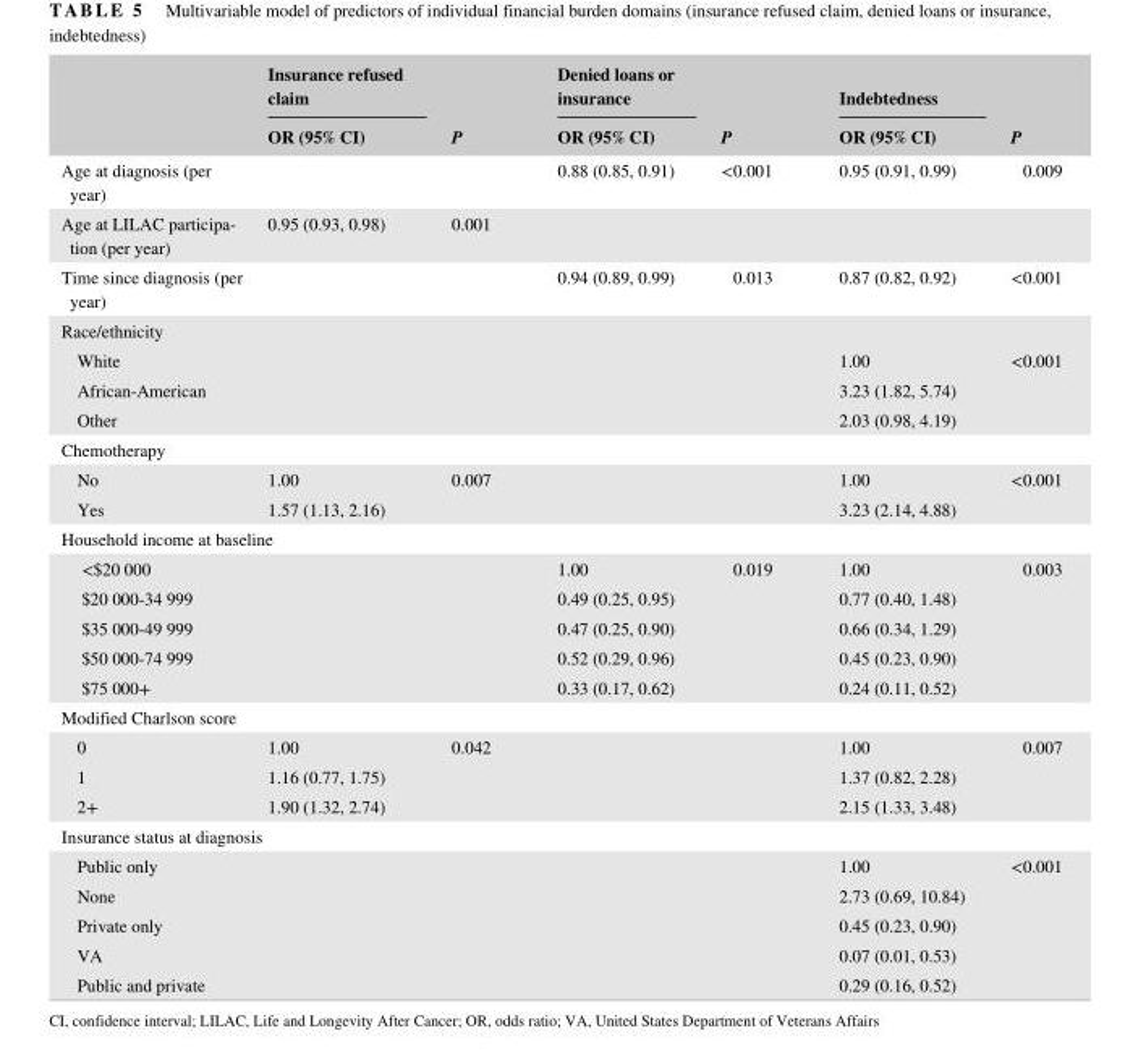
<table><thead><tr><td rowspan="2"></td><td rowspan="2">Insurance refused claim OR (95% CI)</td><td rowspan="2">P</td><td rowspan="2">Denied loans or insurance OR (95% CI)</td><td rowspan="2">P</td><td rowspan="2">Indebtedness OR (95% CI)</td><td rowspan="2">P</td></tr><tr></tr></thead><tbody><tr><td>Age at diagnosis (per year)</td><td></td><td></td><td>0.88 (0.85, 0.91)</td><td>&lt;0.001</td><td>0.95 (0.91, 0.99)</td><td>0.009</td></tr><tr><td>Age at LILAC participa- tion (per year)</td><td>0.95 (0.93, 0.98)</td><td>0.001</td><td></td><td></td><td></td><td></td></tr><tr><td>Time since diagnosis (per year)</td><td></td><td></td><td>0.94 (0.89, 0.99)</td><td>0.013</td><td>0.87 (0.82, 0.92)</td><td>&lt;0.001</td></tr><tr><td colspan="7">Race/ethnicity</td></tr><tr><td>White</td><td></td><td></td><td></td><td></td><td>1.00</td><td>&lt;0.001</td></tr><tr><td>African- American</td><td></td><td></td><td></td><td></td><td>3.23 (1.82, 5.74)</td><td></td></tr><tr><td>Other</td><td></td><td></td><td></td><td></td><td>2.03 (0.98, 4.19)</td><td></td></tr><tr><td colspan="7">Chemotherapy</td></tr><tr><td>No</td><td>1.00</td><td>0.007</td><td></td><td></td><td>1.00</td><td>&lt;0.001</td></tr><tr><td>Yes</td><td>1.57 (1.13, 2.16)</td><td></td><td></td><td></td><td>3.23 (2.14, 4.88)</td><td></td></tr><tr><td colspan="7">Household income at baseline</td></tr><tr><td>&lt;$20 000</td><td></td><td></td><td>1.00</td><td>0.019</td><td>1.00</td><td>0.003</td></tr><tr><td>$20 000- 34 999</td><td></td><td></td><td>0.49 (0.25, 0.95)</td><td></td><td>0.77 (0.40, 1.48)</td><td></td></tr><tr><td>$35 000- 49 999</td><td></td><td></td><td>0.47 (0.25, 0.90)</td><td></td><td>0.66 (0.34, 1.29)</td><td></td></tr><tr><td>$50 000- 74 999</td><td></td><td></td><td>0.52 (0.29, 0.96)</td><td></td><td>0.45 (0.23, 0.90)</td><td></td></tr><tr><td>$75 000+</td><td></td><td></td><td>0.33 (0.17, 0.62)</td><td></td><td>0.24 (0.11, 0.52)</td><td></td></tr><tr><td colspan="7">Modified Charlson score</td></tr><tr><td>0</td><td>1.00</td><td>0.042</td><td></td><td></td><td>1.00</td><td>0.007</td></tr><tr><td>1</td><td>1.16 (0.77, 1.75)</td><td></td><td></td><td></td><td>1.37 (0.82, 2.28)</td><td></td></tr><tr><td>2+</td><td>1.90 (1.32, 2.74)</td><td></td><td></td><td></td><td>2.15 (1.33, 3.48)</td><td></td></tr><tr><td colspan="7">Insurance status at diagnosis</td></tr><tr><td>Public only</td><td></td><td></td><td></td><td></td><td>1.00</td><td>&lt;0.001</td></tr><tr><td>None</td><td></td><td></td><td></td><td></td><td>2.73 (0.69, 10.84)</td><td></td></tr><tr><td>Private only</td><td></td><td></td><td></td><td></td><td>0.45 (0.23, 0.90)</td><td></td></tr><tr><td>VA</td><td></td><td></td><td></td><td></td><td>0.07 (0.01, 0.53)</td><td></td></tr><tr><td>Public and private</td><td></td><td></td><td></td><td></td><td>0.29 (0.16, 0.52)</td><td></td></tr></tbody></table>